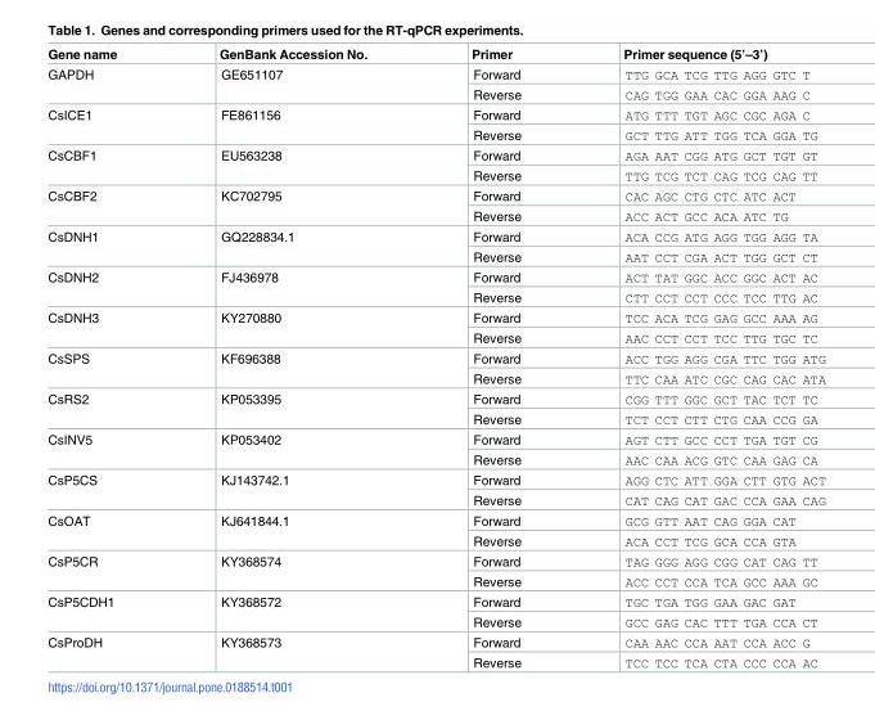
<table><thead><tr><td>Gene name</td><td>GenBank Accession No.</td><td>Primer</td><td>Primer sequence (5’–3’)</td></tr></thead><tbody><tr><td rowspan="2">GAPDH</td><td rowspan="2">GE651107</td><td>Forward</td><td>TTG GCA TCG TTG AGG GTC T</td></tr><tr><td>Reverse</td><td>CAG TGG GAA CAC GGA AAG C</td></tr><tr><td rowspan="2">CsICE1</td><td rowspan="2">FE861156</td><td>Forward</td><td>ATG TTT TGT AGC CGC AGA C</td></tr><tr><td>Reverse</td><td>GCT TTG ATT TGG TCA GGA TG</td></tr><tr><td rowspan="2">CsCBF1</td><td rowspan="2">EU563238</td><td>Forward</td><td>AGA AAT CGG ATG GCT TGT GT</td></tr><tr><td>Reverse</td><td>TTG TCG TCT CAG TCG CAG TT</td></tr><tr><td rowspan="2">CsCBF2</td><td rowspan="2">KC702795</td><td>Forward</td><td>CAC AGC CTG CTC ATC ACT</td></tr><tr><td>Reverse</td><td>ACC ACT GCC ACA ATC TG</td></tr><tr><td rowspan="2">CsDNH1</td><td rowspan="2">GQ228834.1</td><td>Forward</td><td>ACA CCG ATG AGG TGG AGG TA</td></tr><tr><td>Reverse</td><td>AAT CCT CGA ACT TGG GCT CT</td></tr><tr><td rowspan="2">CsDNH2</td><td rowspan="2">FJ436978</td><td>Forward</td><td>ACT TAT GGC ACC GGC ACT AC</td></tr><tr><td>Reverse</td><td>CTT CCT CCT CCC TCC TTG AC</td></tr><tr><td rowspan="2">CsDNH3</td><td rowspan="2">KY270880</td><td>Forward</td><td>TCC ACA TCG GAG GCC AAA AG</td></tr><tr><td>Reverse</td><td>AAC CCT CCT TCC TTG TGC TC</td></tr><tr><td rowspan="2">CsSPS</td><td rowspan="2">KF696388</td><td>Forward</td><td>ACC TGG AGG CGA TTC TGG ATG</td></tr><tr><td>Reverse</td><td>TTC CAA ATC CGC CAG CAC ATA</td></tr><tr><td rowspan="2">CsRS2</td><td rowspan="2">KP053395</td><td>Forward</td><td>CGG TTT GGC GCT TAC TCT TC</td></tr><tr><td>Reverse</td><td>TCT CCT CTT CTG CAA CCG GA</td></tr><tr><td rowspan="2">CsINV5</td><td rowspan="2">KP053402</td><td>Forward</td><td>AGT CTT GCC CCT TGA TGT CG</td></tr><tr><td>Reverse</td><td>AAC CAA ACG GTC CAA GAG CA</td></tr><tr><td rowspan="2">CsP5CS</td><td rowspan="2">KJ143742.1</td><td>Forward</td><td>AGG CTC ATT GGA CTT GTG ACT</td></tr><tr><td>Reverse</td><td>CAT CAG CAT GAC CCA GAA CAG</td></tr><tr><td rowspan="2">CsOAT</td><td rowspan="2">KJ641844.1</td><td>Forward</td><td>GCG GTT AAT CAG GGA CAT</td></tr><tr><td>Reverse</td><td>ACA CCT TCG GCA CCA GTA</td></tr><tr><td rowspan="2">CsP5CR</td><td rowspan="2">KY368574</td><td>Forward</td><td>TAG GGG AGG CGG CAT CAG TT</td></tr><tr><td>Reverse</td><td>ACC CCT CCA TCA GCC AAA GC</td></tr><tr><td rowspan="2">CsP5CDH1</td><td rowspan="2">KY368572</td><td>Forward</td><td>TGC TGA TGG GAA GAC GAT</td></tr><tr><td>Reverse</td><td>GCC GAG CAC TTT TGA CCA CT</td></tr><tr><td rowspan="2">CsProDH</td><td rowspan="2">KY368573</td><td>Forward</td><td>CAA AAC CCA AAT CCA ACC G</td></tr><tr><td>Reverse</td><td>TCC TCC TCA CTA CCC CCA AC</td></tr></tbody></table>